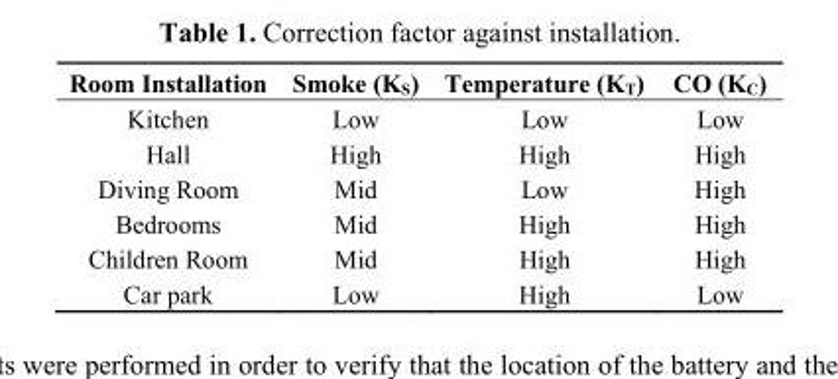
<table><thead><tr><td>Room Installation</td><td>Smoke (K<sub>S</sub>)</td><td>Temperature (K<sub>T</sub>)</td><td>CO (K<sub>C</sub>)</td></tr></thead><tbody><tr><td>Kitchen</td><td>Low</td><td>Low</td><td>Low</td></tr><tr><td>Hall</td><td>High</td><td>High</td><td>High</td></tr><tr><td>Diving Room</td><td>Mid</td><td>Low</td><td>High</td></tr><tr><td>Bedrooms</td><td>Mid</td><td>High</td><td>High</td></tr><tr><td>Children Room</td><td>Mid</td><td>High</td><td>High</td></tr><tr><td>Car park</td><td>Low</td><td>High</td><td>Low</td></tr></tbody></table>